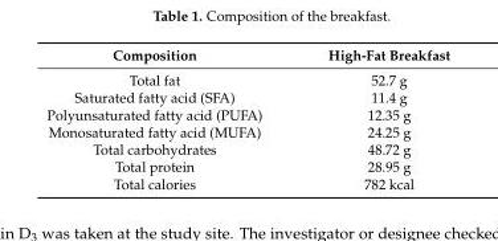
<table><thead><tr><td>Composition</td><td>High-Fat Breakfast</td></tr></thead><tbody><tr><td>Total fat</td><td>52.7 g</td></tr><tr><td>Saturated fatty acid (SFA)</td><td>11.4 g</td></tr><tr><td>Polyunsaturated fatty acid (PUFA)</td><td>12.35 g</td></tr><tr><td>Monosaturated fatty acid (MUFA)</td><td>24.25 g</td></tr><tr><td>Total carbohydrates</td><td>48.72 g</td></tr><tr><td>Total protein</td><td>28.95 g</td></tr><tr><td>Total calories</td><td>782 kcal</td></tr></tbody></table>